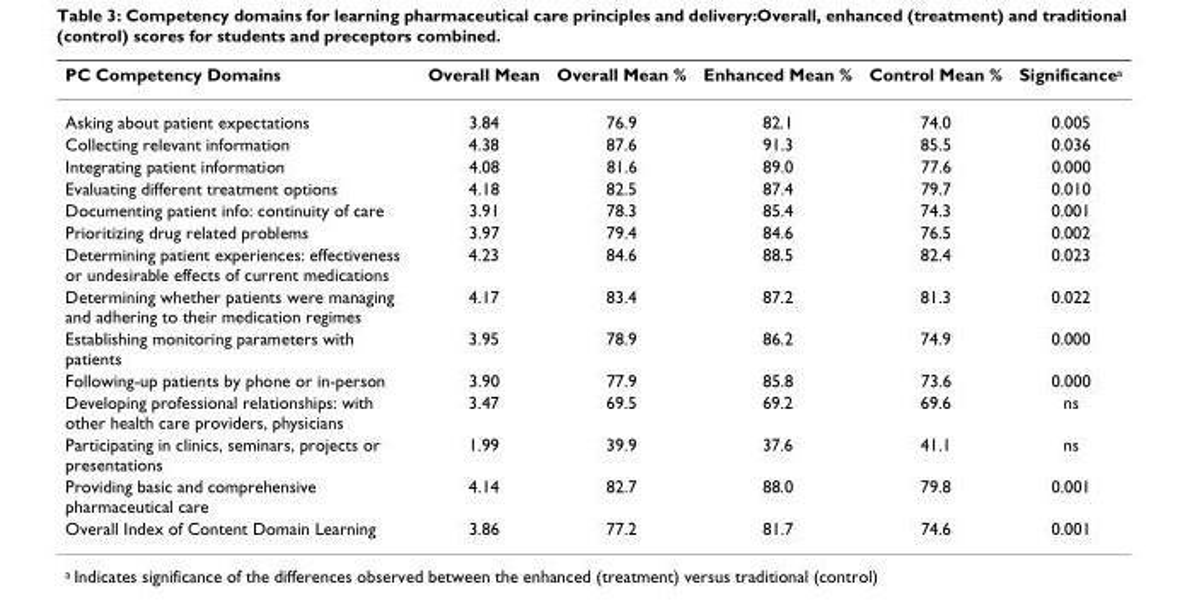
<table><thead><tr><td>PC Competency Domains</td><td>Overall Mean</td><td>Overall Mean %</td><td>Enhanced Mean %</td><td>Control Mean %</td><td>Significance<sup>a</sup></td></tr></thead><tbody><tr><td>Asking about patient expectations</td><td>3.84</td><td>76.9</td><td>82.1</td><td>74.0</td><td>0.005</td></tr><tr><td>Collecting relevant information</td><td>4.38</td><td>87.6</td><td>91.3</td><td>85.5</td><td>0.036</td></tr><tr><td>Integrating patient information</td><td>4.08</td><td>81.6</td><td>89.0</td><td>77.6</td><td>0.000</td></tr><tr><td>Evaluating different treatment options</td><td>4.18</td><td>82.5</td><td>87.4</td><td>79.7</td><td>0.010</td></tr><tr><td>Documenting patient info: continuity of care</td><td>3.91</td><td>78.3</td><td>85.4</td><td>74.3</td><td>0.001</td></tr><tr><td>Prioritizing drug related problems</td><td>3.97</td><td>79.4</td><td>84.6</td><td>76.5</td><td>0.002</td></tr><tr><td>Determining patient experiences: effectiveness or undesirable effects of current medications</td><td>4.23</td><td>84.6</td><td>88.5</td><td>82.4</td><td>0.023</td></tr><tr><td>Determining whether patients were managing and adhering to their medication regimes</td><td>4.17</td><td>83.4</td><td>87.2</td><td>81.3</td><td>0.022</td></tr><tr><td>Establishing monitoring parameters with patients</td><td>3.95</td><td>78.9</td><td>86.2</td><td>74.9</td><td>0.000</td></tr><tr><td>Following-up patients by phone or in-person</td><td>3.90</td><td>77.9</td><td>85.8</td><td>73.6</td><td>0.000</td></tr><tr><td>Developing professional relationships: with other health care providers, physicians</td><td>3.47</td><td>69.5</td><td>69.2</td><td>69.6</td><td>ns</td></tr><tr><td>Participating in clinics, seminars, projects or presentations</td><td>1.99</td><td>39.9</td><td>37.6</td><td>41.1</td><td>ns</td></tr><tr><td>Providing basic and comprehensive pharmaceutical care</td><td>4.14</td><td>82.7</td><td>88.0</td><td>79.8</td><td>0.001</td></tr><tr><td>Overall Index of Content Domain Learning</td><td>3.86</td><td>77.2</td><td>81.7</td><td>74.6</td><td>0.001</td></tr></tbody></table>